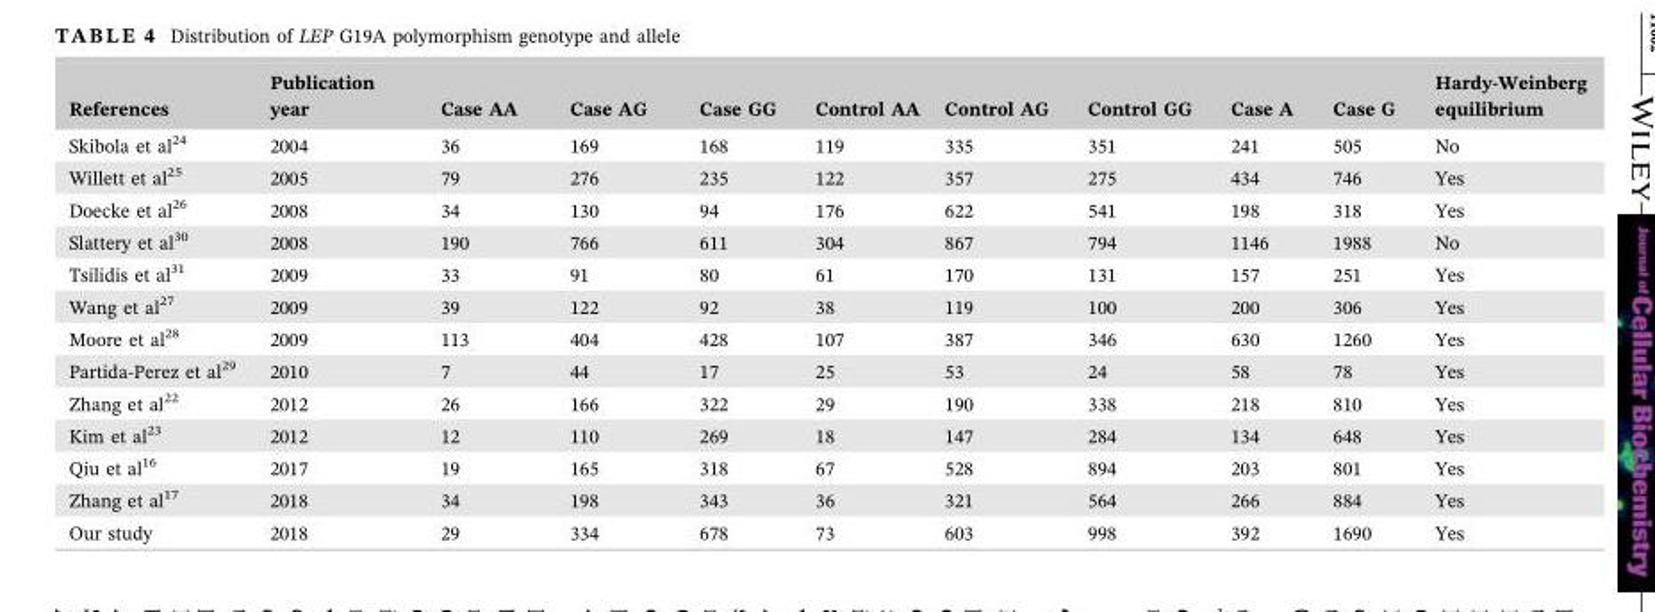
<table><thead><tr><td>References</td><td>Publication year</td><td>Case AA</td><td>Case AG</td><td>Case GG</td><td>Control AA</td><td>Control AG</td><td>Control GG</td><td>Case A</td><td>Case G</td><td>Hardy‐Weinberg equilibrium</td></tr></thead><tbody><tr><td>Skibola et al<sup>24</sup></td><td>2004</td><td>36</td><td>169</td><td>168</td><td>119</td><td>335</td><td>351</td><td>241</td><td>505</td><td>No</td></tr><tr><td>Willett et al<sup>25</sup></td><td>2005</td><td>79</td><td>276</td><td>235</td><td>122</td><td>357</td><td>275</td><td>434</td><td>746</td><td>Yes</td></tr><tr><td>Doecke et al<sup>26</sup></td><td>2008</td><td>34</td><td>130</td><td>94</td><td>176</td><td>622</td><td>541</td><td>198</td><td>318</td><td>Yes</td></tr><tr><td>Slattery et al<sup>30</sup></td><td>2008</td><td>190</td><td>766</td><td>611</td><td>304</td><td>867</td><td>794</td><td>1146</td><td>1988</td><td>No</td></tr><tr><td>Tsilidis et al<sup>31</sup></td><td>2009</td><td>33</td><td>91</td><td>80</td><td>61</td><td>170</td><td>131</td><td>157</td><td>251</td><td>Yes</td></tr><tr><td>Wang et al<sup>27</sup></td><td>2009</td><td>39</td><td>122</td><td>92</td><td>38</td><td>119</td><td>100</td><td>200</td><td>306</td><td>Yes</td></tr><tr><td>Moore et al<sup>28</sup></td><td>2009</td><td>113</td><td>404</td><td>428</td><td>107</td><td>387</td><td>346</td><td>630</td><td>1260</td><td>Yes</td></tr><tr><td>Partida‐Perez et al<sup>29</sup></td><td>2010</td><td>7</td><td>44</td><td>17</td><td>25</td><td>53</td><td>24</td><td>58</td><td>78</td><td>Yes</td></tr><tr><td>Zhang et al<sup>22</sup></td><td>2012</td><td>26</td><td>166</td><td>322</td><td>29</td><td>190</td><td>338</td><td>218</td><td>810</td><td>Yes</td></tr><tr><td>Kim et al<sup>23</sup></td><td>2012</td><td>12</td><td>110</td><td>269</td><td>18</td><td>147</td><td>284</td><td>134</td><td>648</td><td>Yes</td></tr><tr><td>Qiu et al<sup>16</sup></td><td>2017</td><td>19</td><td>165</td><td>318</td><td>67</td><td>528</td><td>894</td><td>203</td><td>801</td><td>Yes</td></tr><tr><td>Zhang et al<sup>17</sup></td><td>2018</td><td>34</td><td>198</td><td>343</td><td>36</td><td>321</td><td>564</td><td>266</td><td>884</td><td>Yes</td></tr><tr><td>Our study</td><td>2018</td><td>29</td><td>334</td><td>678</td><td>73</td><td>603</td><td>998</td><td>392</td><td>1690</td><td>Yes</td></tr></tbody></table>